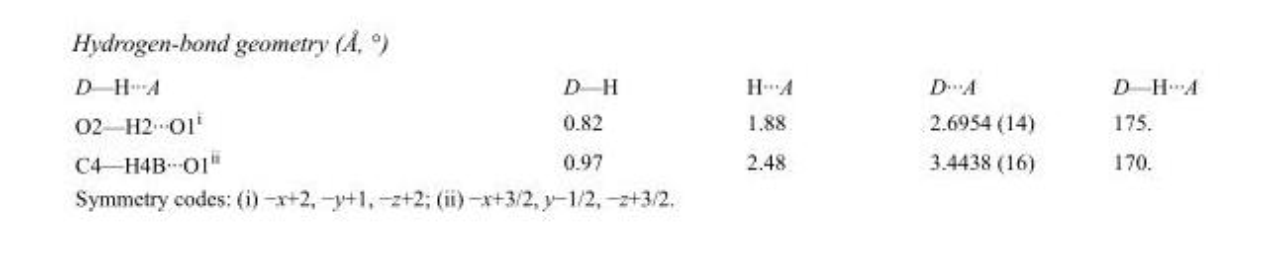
<table><tbody><tr><td>D—H···A</td><td>D—H</td><td>H···A</td><td>D···A</td><td>D—H···A</td></tr><tr><td>O2—H2···O1<sup>i</sup></td><td>0.82</td><td>1.88</td><td>2.6954 (14)</td><td>175.</td></tr><tr><td>C4—H4B···O1<sup>ii</sup></td><td>0.97</td><td>2.48</td><td>3.4438 (16)</td><td>170.</td></tr></tbody></table>